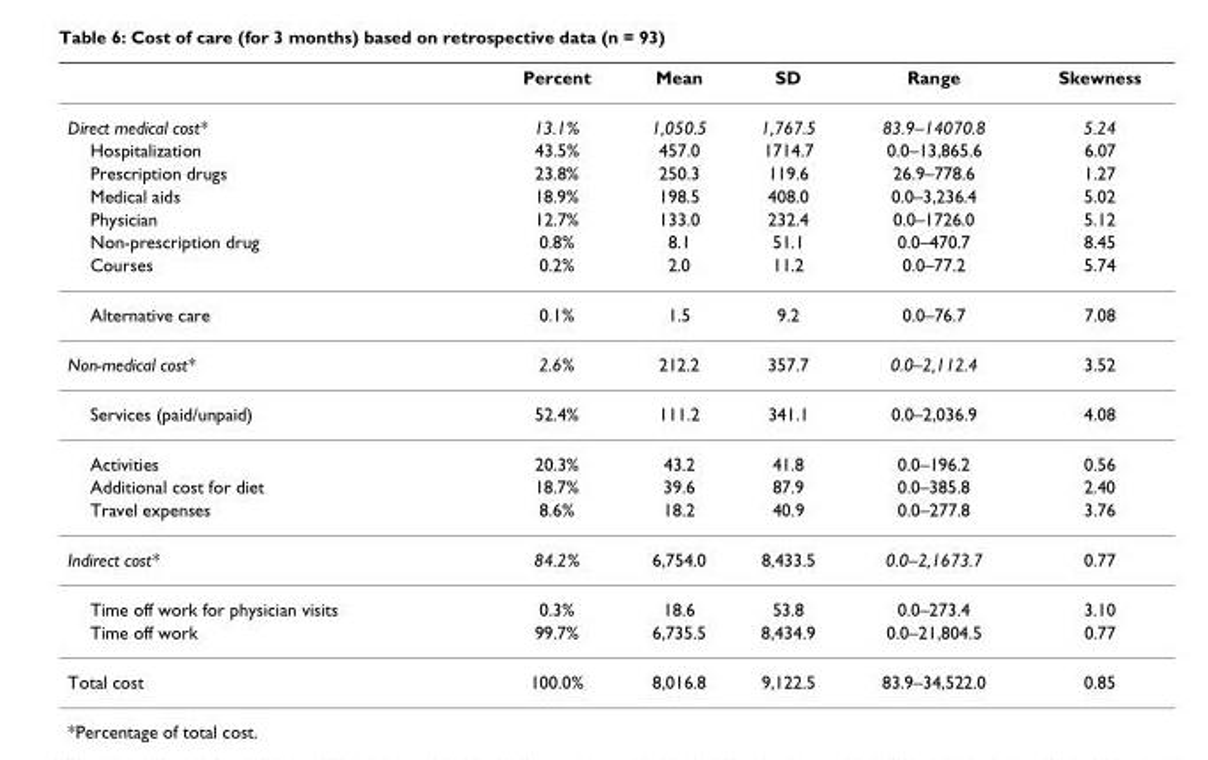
<table><thead><tr><td></td><td>Percent</td><td>Mean</td><td>SD</td><td>Range</td><td>Skewness</td></tr></thead><tbody><tr><td>Direct medical cost*</td><td>13.1%</td><td>1,050.5</td><td>1,767.5</td><td>83.9–14070.8</td><td>5.24</td></tr><tr><td>Hospitalization</td><td>43.5%</td><td>457.0</td><td>1714.7</td><td>0.0–13,865.6</td><td>6.07</td></tr><tr><td>Prescription drugs</td><td>23.8%</td><td>250.3</td><td>119.6</td><td>26.9–778.6</td><td>1.27</td></tr><tr><td>Medical aids</td><td>18.9%</td><td>198.5</td><td>408.0</td><td>0.0–3,236.4</td><td>5.02</td></tr><tr><td>Physician</td><td>12.7%</td><td>133.0</td><td>232.4</td><td>0.0–1726.0</td><td>5.12</td></tr><tr><td>Non-prescription drug</td><td>0.8%</td><td>8.1</td><td>51.1</td><td>0.0–470.7</td><td>8.45</td></tr><tr><td>Courses</td><td>0.2%</td><td>2.0</td><td>11.2</td><td>0.0–77.2</td><td>5.74</td></tr><tr><td>Alternative care</td><td>0.1%</td><td>1.5</td><td>9.2</td><td>0.0–76.7</td><td>7.08</td></tr><tr><td>Non-medical cost*</td><td>2.6%</td><td>212.2</td><td>357.7</td><td>0.0–2,112.4</td><td>3.52</td></tr><tr><td>Services (paid/unpaid)</td><td>52.4%</td><td>111.2</td><td>341.1</td><td>0.0–2,036.9</td><td>4.08</td></tr><tr><td>Activities</td><td>20.3%</td><td>43.2</td><td>41.8</td><td>0.0–196.2</td><td>0.56</td></tr><tr><td>Additional cost for diet</td><td>18.7%</td><td>39.6</td><td>87.9</td><td>0.0–385.8</td><td>2.40</td></tr><tr><td>Travel expenses</td><td>8.6%</td><td>18.2</td><td>40.9</td><td>0.0–277.8</td><td>3.76</td></tr><tr><td>Indirect cost*</td><td>84.2%</td><td>6,754.0</td><td>8,433.5</td><td>0.0–2,1673.7</td><td>0.77</td></tr><tr><td>Time off work for physician visits</td><td>0.3%</td><td>18.6</td><td>53.8</td><td>0.0–273.4</td><td>3.10</td></tr><tr><td>Time off work</td><td>99.7%</td><td>6,735.5</td><td>8,434.9</td><td>0.0–21,804.5</td><td>0.77</td></tr><tr><td>Total cost</td><td>100.0%</td><td>8,016.8</td><td>9,122.5</td><td>83.9–34,522.0</td><td>0.85</td></tr></tbody></table>